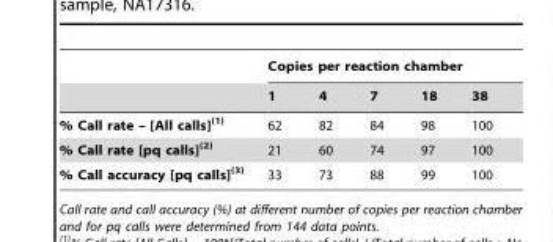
<table><thead><tr><td rowspan="2"></td><td colspan="5">Copies per reaction chamber</td></tr><tr><td>1</td><td>4</td><td>7</td><td>18</td><td>38</td></tr></thead><tbody><tr><td>% Call rate – [All calls](1)</td><td>62</td><td>82</td><td>84</td><td>98</td><td>100</td></tr><tr><td>% Call rate [pq calls](2)</td><td>21</td><td>60</td><td>74</td><td>97</td><td>100</td></tr><tr><td>% Call accuracy [pq calls](3)</td><td>33</td><td>73</td><td>88</td><td>99</td><td>100</td></tr></tbody></table>